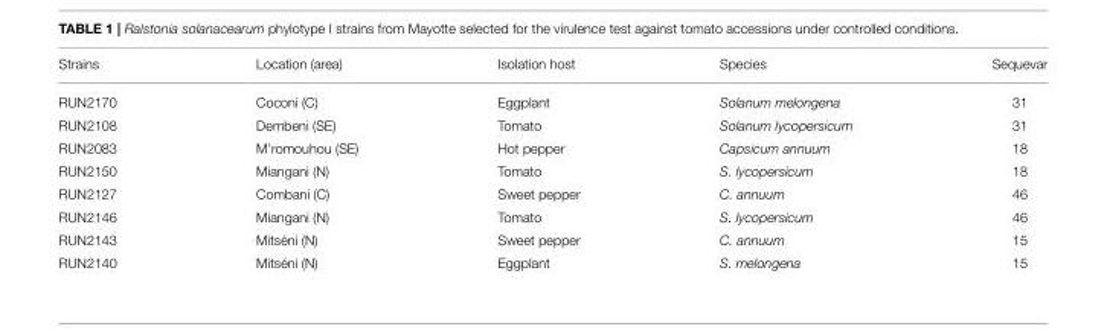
<table><thead><tr><td>Strains</td><td>Location (area)</td><td>Isolation host</td><td>Species</td><td>Sequevar</td></tr></thead><tbody><tr><td>RUN2170</td><td>Coconi (C)</td><td>Eggplant</td><td>Solanum melongena</td><td>31</td></tr><tr><td>RUN2108</td><td>Dembeni (SE)</td><td>Tomato</td><td>Solanum lycopersicum</td><td>31</td></tr><tr><td>RUN2083</td><td>M’romouhou (SE)</td><td>Hot pepper</td><td>Capsicum annuum</td><td>18</td></tr><tr><td>RUN2150</td><td>Miangani (N)</td><td>Tomato</td><td>S. lycopersicum</td><td>18</td></tr><tr><td>RUN2127</td><td>Combani (C)</td><td>Sweet pepper</td><td>C. annuum</td><td>46</td></tr><tr><td>RUN2146</td><td>Miangani (N)</td><td>Tomato</td><td>S. lycopersicum</td><td>46</td></tr><tr><td>RUN2143</td><td>Mitséni (N)</td><td>Sweet pepper</td><td>C. annuum</td><td>15</td></tr><tr><td>RUN2140</td><td>Mitséni (N)</td><td>Eggplant</td><td>S. melongena</td><td>15</td></tr></tbody></table>